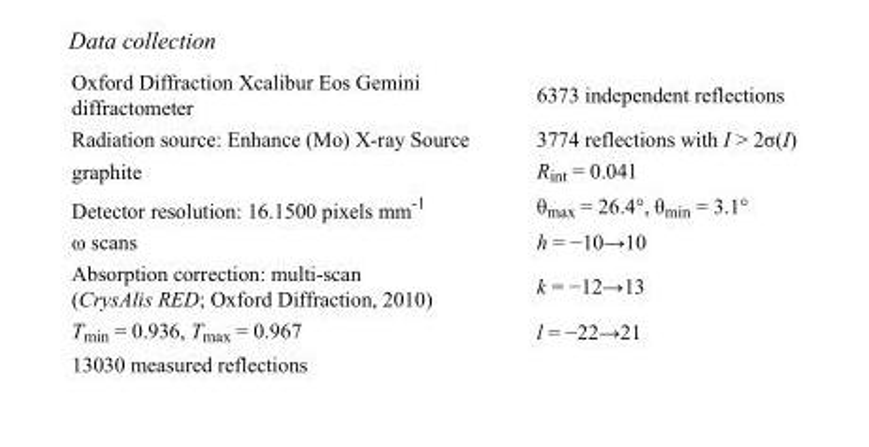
<table><tbody><tr><td>Oxford Diffraction Xcalibur Eos Gemini diffractometer</td><td>6373 independent reflections</td></tr><tr><td>Radiation source: Enhance (Mo) X-ray Source</td><td>3774 reflections with I &gt; 2σ(I)</td></tr><tr><td>graphite</td><td>R<sub>int</sub> = 0.041</td></tr><tr><td>Detector resolution: 16.1500 pixels mm<sup>-1</sup></td><td>θ<sub>max</sub> = 26.4°, θ<sub>min</sub> = 3.1°</td></tr><tr><td>ω scans</td><td>h = −10→10</td></tr><tr><td>Absorption correction: multi-scan (CrysAlis RED; Oxford Diffraction, 2010)</td><td>k = −12→13</td></tr><tr><td>T<sub>min</sub> = 0.936, T<sub>max</sub> = 0.967</td><td>l = −22→21</td></tr><tr><td>13030 measured reflections</td><td></td></tr></tbody></table>